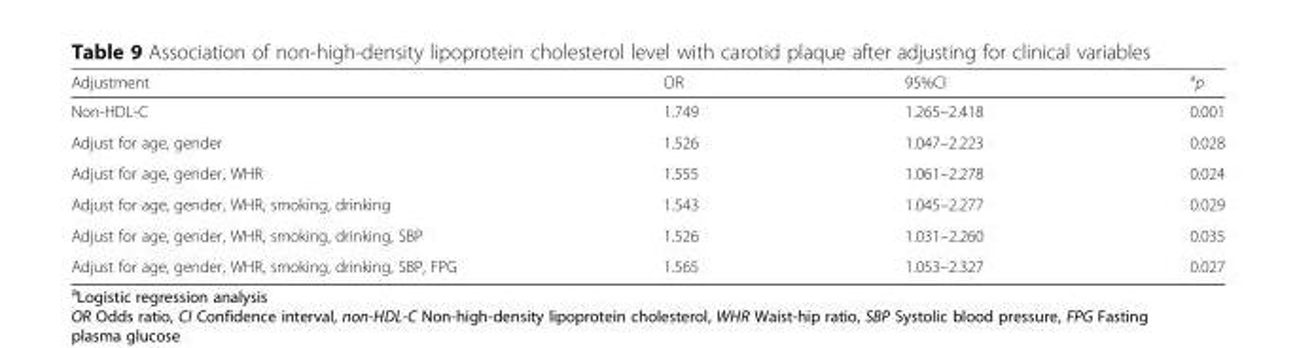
<table><thead><tr><td>Adjustment</td><td>OR</td><td>95%CI</td><td><sup>a</sup>p</td></tr></thead><tbody><tr><td>Non-HDL-C</td><td>1.749</td><td>1.265–2.418</td><td>0.001</td></tr><tr><td>Adjust for age, gender</td><td>1.526</td><td>1.047–2.223</td><td>0.028</td></tr><tr><td>Adjust for age, gender, WHR</td><td>1.555</td><td>1.061–2.278</td><td>0.024</td></tr><tr><td>Adjust for age, gender, WHR, smoking, drinking</td><td>1.543</td><td>1.045–2.277</td><td>0.029</td></tr><tr><td>Adjust for age, gender, WHR, smoking, drinking, SBP</td><td>1.526</td><td>1.031–2.260</td><td>0.035</td></tr><tr><td>Adjust for age, gender, WHR, smoking, drinking, SBP, FPG</td><td>1.565</td><td>1.053–2.327</td><td>0.027</td></tr></tbody></table>